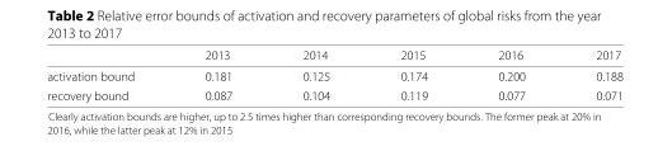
<table><thead><tr><td></td><td>2013</td><td>2014</td><td>2015</td><td>2016</td><td>2017</td></tr></thead><tbody><tr><td>activation bound</td><td>0.181</td><td>0.125</td><td>0.174</td><td>0.200</td><td>0.188</td></tr><tr><td>recovery bound</td><td>0.087</td><td>0.104</td><td>0.119</td><td>0.077</td><td>0.071</td></tr></tbody></table>